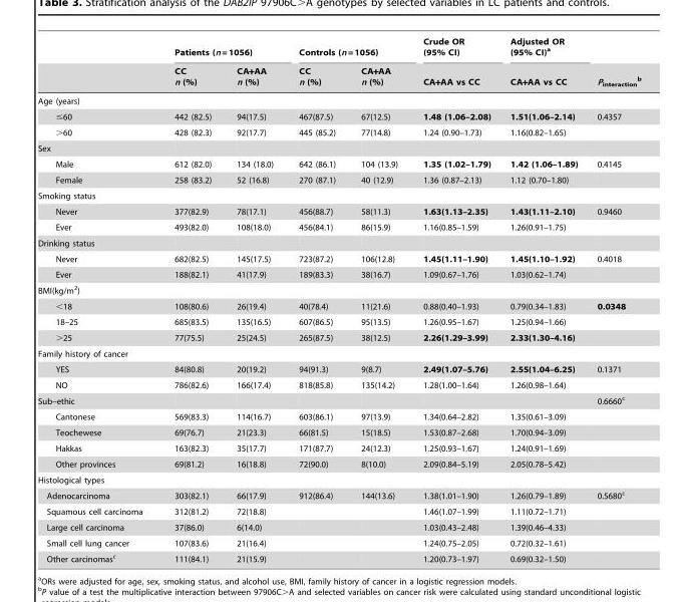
<table><thead><tr><td rowspan="2"></td><td colspan="2">Patients (n = 1056)</td><td colspan="2">Controls (n = 1056)</td><td rowspan="2">Crude OR (95% CI) CA+AA vs CC</td><td rowspan="2">Adjusted OR (95% CI)<sup>a</sup> CA+AA vs CC</td><td rowspan="2">P<sub>interaction</sub> b</td></tr><tr><td>CC n (%)</td><td>CA+AA n (%)</td><td>CC n (%)</td><td>CA+AA n (%)</td></tr></thead><tbody><tr><td colspan="8">Age (years)</td></tr><tr><td>≤60</td><td>442 (82.5)</td><td>94(17.5)</td><td>467(87.5)</td><td>67(12.5)</td><td>1.48 (1.06–2.08)</td><td>1.51(1.06–2.14)</td><td>0.4357</td></tr><tr><td>&gt;60</td><td>428 (82.3)</td><td>92(17.7)</td><td>445 (85.2)</td><td>77(14.8)</td><td>1.24 (0.90–1.73)</td><td>1.16(0.82–1.65)</td><td></td></tr><tr><td colspan="8">Sex</td></tr><tr><td>Male</td><td>612 (82.0)</td><td>134 (18.0)</td><td>642 (86.1)</td><td>104 (13.9)</td><td>1.35 (1.02–1.79)</td><td>1.42 (1.06–1.89)</td><td>0.4145</td></tr><tr><td>Female</td><td>258 (83.2)</td><td>52 (16.8)</td><td>270 (87.1)</td><td>40 (12.9)</td><td>1.36 (0.87–2.13)</td><td>1.12 (0.70–1.80)</td><td></td></tr><tr><td colspan="8">Smoking status</td></tr><tr><td>Never</td><td>377(82.9)</td><td>78(17.1)</td><td>456(88.7)</td><td>58(11.3)</td><td>1.63(1.13–2.35)</td><td>1.43(1.11–2.10)</td><td>0.9460</td></tr><tr><td>Ever</td><td>493(82.0)</td><td>108(18.0)</td><td>456(84.1)</td><td>86(15.9)</td><td>1.16(0.85–1.59)</td><td>1.26(0.91–1.75)</td><td></td></tr><tr><td colspan="8">Drinking status</td></tr><tr><td>Never</td><td>682(82.5)</td><td>145(17.5)</td><td>723(87.2)</td><td>106(12.8)</td><td>1.45(1.11–1.90)</td><td>1.45(1.10–1.92)</td><td>0.4018</td></tr><tr><td>Ever</td><td>188(82.1)</td><td>41(17.9)</td><td>189(83.3)</td><td>38(16.7)</td><td>1.09(0.67–1.76)</td><td>1.03(0.62–1.74)</td><td></td></tr><tr><td colspan="8">BMI(kg/m<sup>2</sup>)</td></tr><tr><td>&lt;18</td><td>108(80.6)</td><td>26(19.4)</td><td>40(78.4)</td><td>11(21.6)</td><td>0.88(0.40–1.93)</td><td>0.79(0.34–1.83)</td><td>0.0348</td></tr><tr><td>18–25</td><td>685(83.5)</td><td>135(16.5)</td><td>607(86.5)</td><td>95(13.5)</td><td>1.26(0.95–1.67)</td><td>1.25(0.94–1.66)</td><td></td></tr><tr><td>&gt;25</td><td>77(75.5)</td><td>25(24.5)</td><td>265(87.5)</td><td>38(12.5)</td><td>2.26(1.29–3.99)</td><td>2.33(1.30–4.16)</td><td></td></tr><tr><td colspan="8">Family history of cancer</td></tr><tr><td>YES</td><td>84(80.8)</td><td>20(19.2)</td><td>94(91.3)</td><td>9(8.7)</td><td>2.49(1.07–5.76)</td><td>2.55(1.04–6.25)</td><td>0.1371</td></tr><tr><td>NO</td><td>786(82.6)</td><td>166(17.4)</td><td>818(85.8)</td><td>135(14.2)</td><td>1.28(1.00–1.64)</td><td>1.26(0.98–1.64)</td><td></td></tr><tr><td>Sub–ethic</td><td></td><td></td><td></td><td></td><td></td><td></td><td>0.6660<sup>c</sup></td></tr><tr><td>Cantonese</td><td>569(83.3)</td><td>114(16.7)</td><td>603(86.1)</td><td>97(13.9)</td><td>1.34(0.64–2.82)</td><td>1.35(0.61–3.09)</td><td></td></tr><tr><td>Teochewese</td><td>69(76.7)</td><td>21(23.3)</td><td>66(81.5)</td><td>15(18.5)</td><td>1.53(0.87–2.68)</td><td>1.70(0.94–3.09)</td><td></td></tr><tr><td>Hakkas</td><td>163(82.3)</td><td>35(17.7)</td><td>171(87.7)</td><td>24(12.3)</td><td>1.25(0.93–1.67)</td><td>1.24(0.91–1.69)</td><td></td></tr><tr><td>Other provinces</td><td>69(81.2)</td><td>16(18.8)</td><td>72(90.0)</td><td>8(10.0)</td><td>2.09(0.84–5.19)</td><td>2.05(0.78–5.42)</td><td></td></tr><tr><td colspan="8">Histological types</td></tr><tr><td>Adenocarcinoma</td><td>303(82.1)</td><td>66(17.9)</td><td>912(86.4)</td><td>144(13.6)</td><td>1.38(1.01–1.90)</td><td>1.26(0.79–1.89)</td><td>0.5680<sup>c</sup></td></tr><tr><td>Squamous cell carcinoma</td><td>312(81.2)</td><td>72(18.8)</td><td></td><td></td><td>1.46(1.07–1.99)</td><td>1.11(0.72–1.71)</td><td></td></tr><tr><td>Large cell carcinoma</td><td>37(86.0)</td><td>6(14.0)</td><td></td><td></td><td>1.03(0.43–2.48)</td><td>1.39(0.46–4.33)</td><td></td></tr><tr><td>Small cell lung cancer</td><td>107(83.6)</td><td>21(16.4)</td><td></td><td></td><td>1.24(0.75–2.05)</td><td>0.72(0.32–1.61)</td><td></td></tr><tr><td>Other carcinomas<sup>c</sup></td><td>111(84.1)</td><td>21(15.9)</td><td></td><td></td><td>1.20(0.73–1.97)</td><td>0.69(0.32–1.50)</td><td></td></tr></tbody></table>